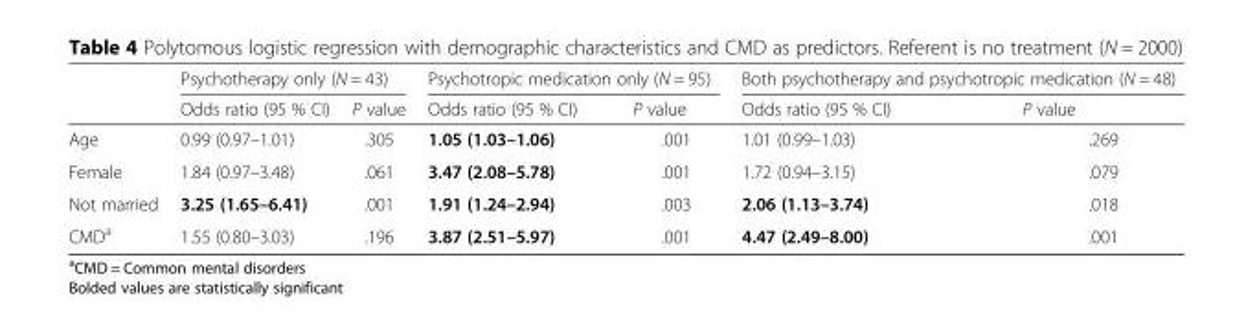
<table><thead><tr><td rowspan="2"></td><td colspan="2">Psychotherapy only (N = 43)</td><td colspan="2">Psychotropic medication only (N = 95)</td><td colspan="2">Both psychotherapy and psychotropic medication (N = 48)</td></tr><tr><td>Odds ratio (95 % CI)</td><td>P value</td><td>Odds ratio (95 % CI)</td><td>P value</td><td>Odds ratio (95 % CI)</td><td>P value</td></tr></thead><tbody><tr><td>Age</td><td>0.99 (0.97–1.01)</td><td>.305</td><td>1.05 (1.03–1.06)</td><td>.001</td><td>1.01 (0.99–1.03)</td><td>.269</td></tr><tr><td>Female</td><td>1.84 (0.97–3.48)</td><td>.061</td><td>3.47 (2.08–5.78)</td><td>.001</td><td>1.72 (0.94–3.15)</td><td>.079</td></tr><tr><td>Not married</td><td>3.25 (1.65–6.41)</td><td>.001</td><td>1.91 (1.24–2.94)</td><td>.003</td><td>2.06 (1.13–3.74)</td><td>.018</td></tr><tr><td>CMD<sup>a</sup></td><td>1.55 (0.80–3.03)</td><td>.196</td><td>3.87 (2.51–5.97)</td><td>.001</td><td>4.47 (2.49–8.00)</td><td>.001</td></tr></tbody></table>